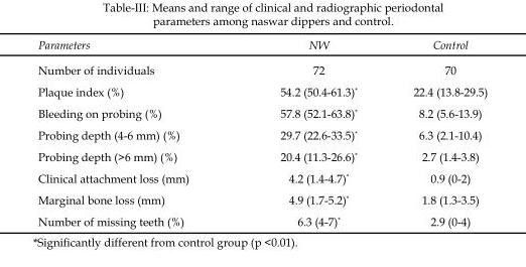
<table><thead><tr><td>Parameters</td><td>NW</td><td>Control</td></tr></thead><tbody><tr><td>Number of individuals</td><td>72</td><td>70</td></tr><tr><td>Plaque index (%)</td><td>54.2 (50.4-61.3)*</td><td>22.4 (13.8-29.5)</td></tr><tr><td>Bleeding on probing (%)</td><td>57.8 (52.1-63.8)*</td><td>8.2 (5.6-13.9)</td></tr><tr><td>Probing depth (4-6 mm) (%)</td><td>29.7 (22.6-33.5)*</td><td>6.3 (2.1-10.4)</td></tr><tr><td>Probing depth (&gt;6 mm) (%)</td><td>20.4 (11.3-26.6)*</td><td>2.7 (1.4-3.8)</td></tr><tr><td>Clinical attachment loss (mm)</td><td>4.2 (1.4-4.7)*</td><td>0.9 (0-2)</td></tr><tr><td>Marginal bone loss (mm)</td><td>4.9 (1.7-5.2)*</td><td>1.8 (1.3-3.5)</td></tr><tr><td>Number of missing teeth (%)</td><td>6.3 (4-7)*</td><td>2.9 (0-4)</td></tr></tbody></table>